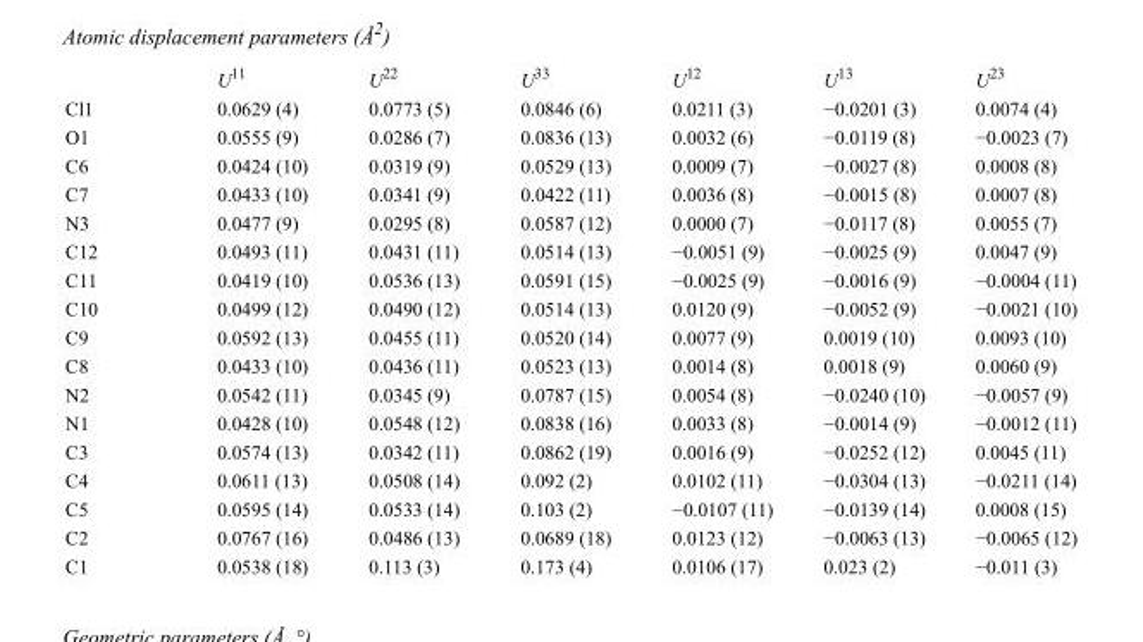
<table><thead><tr><td></td><td>U<sup>11</sup></td><td>U<sup>22</sup></td><td>U<sup>33</sup></td><td>U<sup>12</sup></td><td>U<sup>13</sup></td><td>U<sup>23</sup></td></tr></thead><tbody><tr><td>Cl1</td><td>0.0629 (4)</td><td>0.0773 (5)</td><td>0.0846 (6)</td><td>0.0211 (3)</td><td>−0.0201 (3)</td><td>0.0074 (4)</td></tr><tr><td>O1</td><td>0.0555 (9)</td><td>0.0286 (7)</td><td>0.0836 (13)</td><td>0.0032 (6)</td><td>−0.0119 (8)</td><td>−0.0023 (7)</td></tr><tr><td>C6</td><td>0.0424 (10)</td><td>0.0319 (9)</td><td>0.0529 (13)</td><td>0.0009 (7)</td><td>−0.0027 (8)</td><td>0.0008 (8)</td></tr><tr><td>C7</td><td>0.0433 (10)</td><td>0.0341 (9)</td><td>0.0422 (11)</td><td>0.0036 (8)</td><td>−0.0015 (8)</td><td>0.0007 (8)</td></tr><tr><td>N3</td><td>0.0477 (9)</td><td>0.0295 (8)</td><td>0.0587 (12)</td><td>0.0000 (7)</td><td>−0.0117 (8)</td><td>0.0055 (7)</td></tr><tr><td>C12</td><td>0.0493 (11)</td><td>0.0431 (11)</td><td>0.0514 (13)</td><td>−0.0051 (9)</td><td>−0.0025 (9)</td><td>0.0047 (9)</td></tr><tr><td>C11</td><td>0.0419 (10)</td><td>0.0536 (13)</td><td>0.0591 (15)</td><td>−0.0025 (9)</td><td>−0.0016 (9)</td><td>−0.0004 (11)</td></tr><tr><td>C10</td><td>0.0499 (12)</td><td>0.0490 (12)</td><td>0.0514 (13)</td><td>0.0120 (9)</td><td>−0.0052 (9)</td><td>−0.0021 (10)</td></tr><tr><td>C9</td><td>0.0592 (13)</td><td>0.0455 (11)</td><td>0.0520 (14)</td><td>0.0077 (9)</td><td>0.0019 (10)</td><td>0.0093 (10)</td></tr><tr><td>C8</td><td>0.0433 (10)</td><td>0.0436 (11)</td><td>0.0523 (13)</td><td>0.0014 (8)</td><td>0.0018 (9)</td><td>0.0060 (9)</td></tr><tr><td>N2</td><td>0.0542 (11)</td><td>0.0345 (9)</td><td>0.0787 (15)</td><td>0.0054 (8)</td><td>−0.0240 (10)</td><td>−0.0057 (9)</td></tr><tr><td>N1</td><td>0.0428 (10)</td><td>0.0548 (12)</td><td>0.0838 (16)</td><td>0.0033 (8)</td><td>−0.0014 (9)</td><td>−0.0012 (11)</td></tr><tr><td>C3</td><td>0.0574 (13)</td><td>0.0342 (11)</td><td>0.0862 (19)</td><td>0.0016 (9)</td><td>−0.0252 (12)</td><td>0.0045 (11)</td></tr><tr><td>C4</td><td>0.0611 (13)</td><td>0.0508 (14)</td><td>0.092 (2)</td><td>0.0102 (11)</td><td>−0.0304 (13)</td><td>−0.0211 (14)</td></tr><tr><td>C5</td><td>0.0595 (14)</td><td>0.0533 (14)</td><td>0.103 (2)</td><td>−0.0107 (11)</td><td>−0.0139 (14)</td><td>0.0008 (15)</td></tr><tr><td>C2</td><td>0.0767 (16)</td><td>0.0486 (13)</td><td>0.0689 (18)</td><td>0.0123 (12)</td><td>−0.0063 (13)</td><td>−0.0065 (12)</td></tr><tr><td>C1</td><td>0.0538 (18)</td><td>0.113 (3)</td><td>0.173 (4)</td><td>0.0106 (17)</td><td>0.023 (2)</td><td>−0.011 (3)</td></tr></tbody></table>